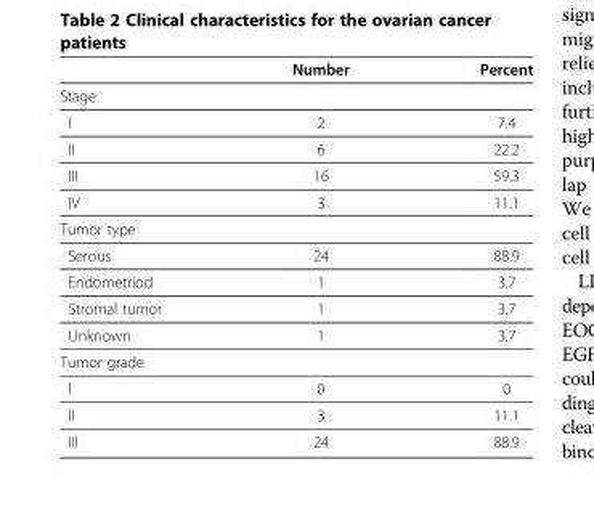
<table><thead><tr><td></td><td>Number</td><td>Percent</td></tr></thead><tbody><tr><td colspan="3">Stage</td></tr><tr><td>I</td><td>2</td><td>7.4</td></tr><tr><td>II</td><td>6</td><td>22.2</td></tr><tr><td>III</td><td>16</td><td>59.3</td></tr><tr><td>IV</td><td>3</td><td>11.1</td></tr><tr><td colspan="3">Tumor type</td></tr><tr><td>Serous</td><td>24</td><td>88.9</td></tr><tr><td>Endometriod</td><td>1</td><td>3.7</td></tr><tr><td>Stromal tumor</td><td>1</td><td>3.7</td></tr><tr><td>Unknown</td><td>1</td><td>3.7</td></tr><tr><td colspan="3">Tumor grade</td></tr><tr><td>I</td><td>0</td><td>0</td></tr><tr><td>II</td><td>3</td><td>11.1</td></tr><tr><td>III</td><td>24</td><td>88.9</td></tr></tbody></table>